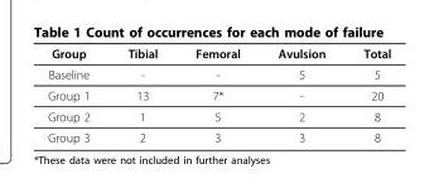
<table><thead><tr><td>Group</td><td>Tibial</td><td>Femoral</td><td>Avulsion</td><td>Total</td></tr></thead><tbody><tr><td>Baseline</td><td>-</td><td>-</td><td>5</td><td>5</td></tr><tr><td>Group 1</td><td>13</td><td>7*</td><td>-</td><td>20</td></tr><tr><td>Group 2</td><td>1</td><td>5</td><td>2</td><td>8</td></tr><tr><td>Group 3</td><td>2</td><td>3</td><td>3</td><td>8</td></tr></tbody></table>